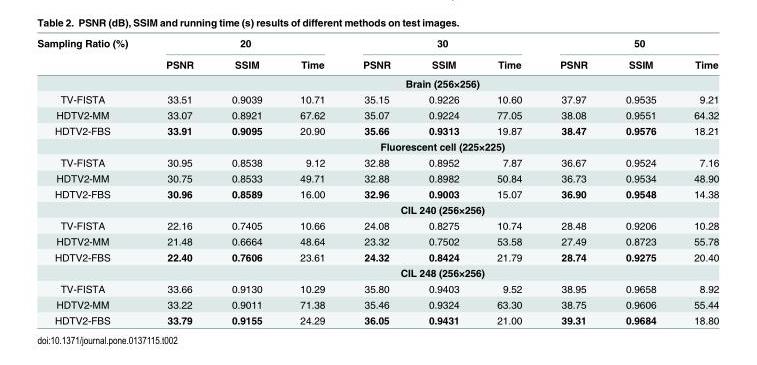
<table><thead><tr><td rowspan="2">Sampling Ratio (%)</td><td colspan="3">20</td><td colspan="3">30</td><td colspan="3">50</td></tr><tr><td>PSNR</td><td>SSIM</td><td>Time</td><td>PSNR</td><td>SSIM</td><td>Time</td><td>PSNR</td><td>SSIM</td><td>Time</td></tr></thead><tbody><tr><td></td><td colspan="9">Brain (256×256)</td></tr><tr><td>TV-FISTA</td><td>33.51</td><td>0.9039</td><td>10.71</td><td>35.15</td><td>0.9226</td><td>10.60</td><td>37.97</td><td>0.9535</td><td>9.21</td></tr><tr><td>HDTV2-MM</td><td>33.07</td><td>0.8921</td><td>67.62</td><td>35.07</td><td>0.9224</td><td>77.05</td><td>38.08</td><td>0.9551</td><td>64.32</td></tr><tr><td rowspan="2">HDTV2-FBS</td><td>33.91</td><td>0.9095</td><td>20.90</td><td>35.66</td><td>0.9313</td><td>19.87</td><td>38.47</td><td>0.9576</td><td>18.21</td></tr><tr><td colspan="9">Fluorescent cell (225×225)</td></tr><tr><td>TV-FISTA</td><td>30.95</td><td>0.8538</td><td>9.12</td><td>32.88</td><td>0.8952</td><td>7.87</td><td>36.67</td><td>0.9524</td><td>7.16</td></tr><tr><td>HDTV2-MM</td><td>30.75</td><td>0.8533</td><td>49.71</td><td>32.88</td><td>0.8982</td><td>50.84</td><td>36.73</td><td>0.9534</td><td>48.90</td></tr><tr><td rowspan="2">HDTV2-FBS</td><td>30.96</td><td>0.8589</td><td>16.00</td><td>32.96</td><td>0.9003</td><td>15.07</td><td>36.90</td><td>0.9548</td><td>14.38</td></tr><tr><td colspan="9">CIL 240 (256×256)</td></tr><tr><td>TV-FISTA</td><td>22.16</td><td>0.7405</td><td>10.66</td><td>24.08</td><td>0.8275</td><td>10.74</td><td>28.48</td><td>0.9206</td><td>10.28</td></tr><tr><td>HDTV2-MM</td><td>21.48</td><td>0.6664</td><td>48.64</td><td>23.32</td><td>0.7502</td><td>53.58</td><td>27.49</td><td>0.8723</td><td>55.78</td></tr><tr><td rowspan="2">HDTV2-FBS</td><td>22.40</td><td>0.7606</td><td>23.61</td><td>24.32</td><td>0.8424</td><td>21.79</td><td>28.74</td><td>0.9275</td><td>20.40</td></tr><tr><td colspan="9">CIL 248 (256×256)</td></tr><tr><td>TV-FISTA</td><td>33.66</td><td>0.9130</td><td>10.29</td><td>35.80</td><td>0.9403</td><td>9.52</td><td>38.95</td><td>0.9658</td><td>8.92</td></tr><tr><td>HDTV2-MM</td><td>33.22</td><td>0.9011</td><td>71.38</td><td>35.46</td><td>0.9324</td><td>63.30</td><td>38.75</td><td>0.9606</td><td>55.44</td></tr><tr><td>HDTV2-FBS</td><td>33.79</td><td>0.9155</td><td>24.29</td><td>36.05</td><td>0.9431</td><td>21.00</td><td>39.31</td><td>0.9684</td><td>18.80</td></tr></tbody></table>